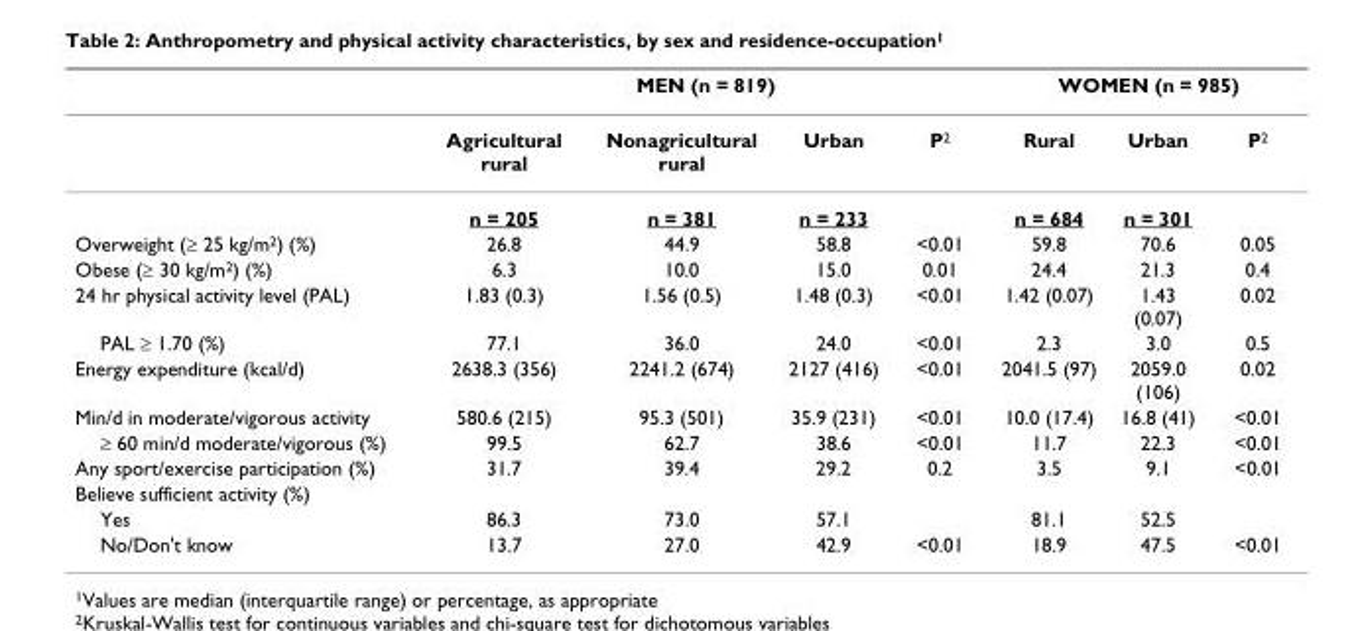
<table><thead><tr><td rowspan="2"></td><td colspan="4">MEN (n = 819)</td><td colspan="3">WOMEN (n = 985)</td></tr><tr><td>Agricultural rural</td><td>Nonagricultural rural</td><td>Urban</td><td>P<sup>2</sup></td><td>Rural</td><td>Urban</td><td>P<sup>2</sup></td></tr></thead><tbody><tr><td></td><td>n = 205</td><td>n = 381</td><td>n = 233</td><td></td><td>n = 684</td><td>n = 301</td><td></td></tr><tr><td>Overweight (≥ 25 kg/m<sup>2</sup>) (%)</td><td>26.8</td><td>44.9</td><td>58.8</td><td>&lt;0.01</td><td>59.8</td><td>70.6</td><td>0.05</td></tr><tr><td>Obese (≥ 30 kg/m<sup>2</sup>) (%)</td><td>6.3</td><td>10.0</td><td>15.0</td><td>0.01</td><td>24.4</td><td>21.3</td><td>0.4</td></tr><tr><td>24 hr physical activity level (PAL)</td><td>1.83 (0.3)</td><td>1.56 (0.5)</td><td>1.48 (0.3)</td><td>&lt;0.01</td><td>1.42 (0.07)</td><td>1.43 (0.07)</td><td>0.02</td></tr><tr><td>PAL ≥ 1.70 (%)</td><td>77.1</td><td>36.0</td><td>24.0</td><td>&lt;0.01</td><td>2.3</td><td>3.0</td><td>0.5</td></tr><tr><td>Energy expenditure (kcal/d)</td><td>2638.3 (356)</td><td>2241.2 (674)</td><td>2127 (416)</td><td>&lt;0.01</td><td>2041.5 (97)</td><td>2059.0 (106)</td><td>0.02</td></tr><tr><td>Min/d in moderate/vigorous activity</td><td>580.6 (215)</td><td>95.3 (501)</td><td>35.9 (231)</td><td>&lt;0.01</td><td>10.0 (17.4)</td><td>16.8 (41)</td><td>&lt;0.01</td></tr><tr><td>≥ 60 min/d moderate/vigorous (%)</td><td>99.5</td><td>62.7</td><td>38.6</td><td>&lt;0.01</td><td>11.7</td><td>22.3</td><td>&lt;0.01</td></tr><tr><td>Any sport/exercise participation (%)</td><td>31.7</td><td>39.4</td><td>29.2</td><td>0.2</td><td>3.5</td><td>9.1</td><td>&lt;0.01</td></tr><tr><td colspan="8">Believe sufficient activity (%)</td></tr><tr><td>Yes</td><td>86.3</td><td>73.0</td><td>57.1</td><td></td><td>81.1</td><td>52.5</td><td></td></tr><tr><td>No/Don&#x27;t know</td><td>13.7</td><td>27.0</td><td>42.9</td><td>&lt;0.01</td><td>18.9</td><td>47.5</td><td>&lt;0.01</td></tr></tbody></table>